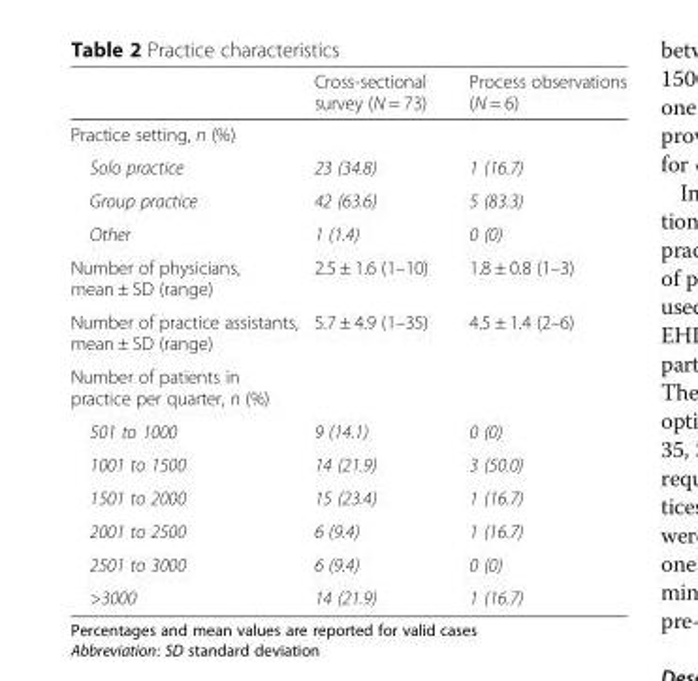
<table><thead><tr><td></td><td>Cross-sectional survey (N = 73)</td><td>Process observations (N = 6)</td></tr></thead><tbody><tr><td colspan="3">Practice setting, n (%)</td></tr><tr><td>Solo practice</td><td>23 (34.8)</td><td>1 (16.7)</td></tr><tr><td>Group practice</td><td>42 (63.6)</td><td>5 (83.3)</td></tr><tr><td>Other</td><td>1 (1.4)</td><td>0 (0)</td></tr><tr><td>Number of physicians, mean ± SD (range)</td><td>2.5 ± 1.6 (1–10)</td><td>1.8 ± 0.8 (1–3)</td></tr><tr><td>Number of practice assistants, mean ± SD (range)</td><td>5.7 ± 4.9 (1–35)</td><td>4.5 ± 1.4 (2–6)</td></tr><tr><td colspan="3">Number of patients in practice per quarter, n (%)</td></tr><tr><td>501 to 1000</td><td>9 (14.1)</td><td>0 (0)</td></tr><tr><td>1001 to 1500</td><td>14 (21.9)</td><td>3 (50.0)</td></tr><tr><td>1501 to 2000</td><td>15 (23.4)</td><td>1 (16.7)</td></tr><tr><td>2001 to 2500</td><td>6 (9.4)</td><td>1 (16.7)</td></tr><tr><td>2501 to 3000</td><td>6 (9.4)</td><td>0 (0)</td></tr><tr><td>&gt;3000</td><td>14 (21.9)</td><td>1 (16.7)</td></tr></tbody></table>